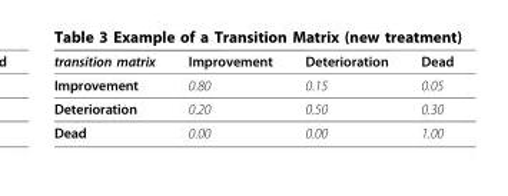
<table><thead><tr><td>transition matrix</td><td>Improvement</td><td>Deterioration</td><td>Dead</td></tr></thead><tbody><tr><td>Improvement</td><td>0.80</td><td>0.15</td><td>0.05</td></tr><tr><td>Deterioration</td><td>0.20</td><td>0.50</td><td>0.30</td></tr><tr><td>Dead</td><td>0.00</td><td>0.00</td><td>1.00</td></tr></tbody></table>